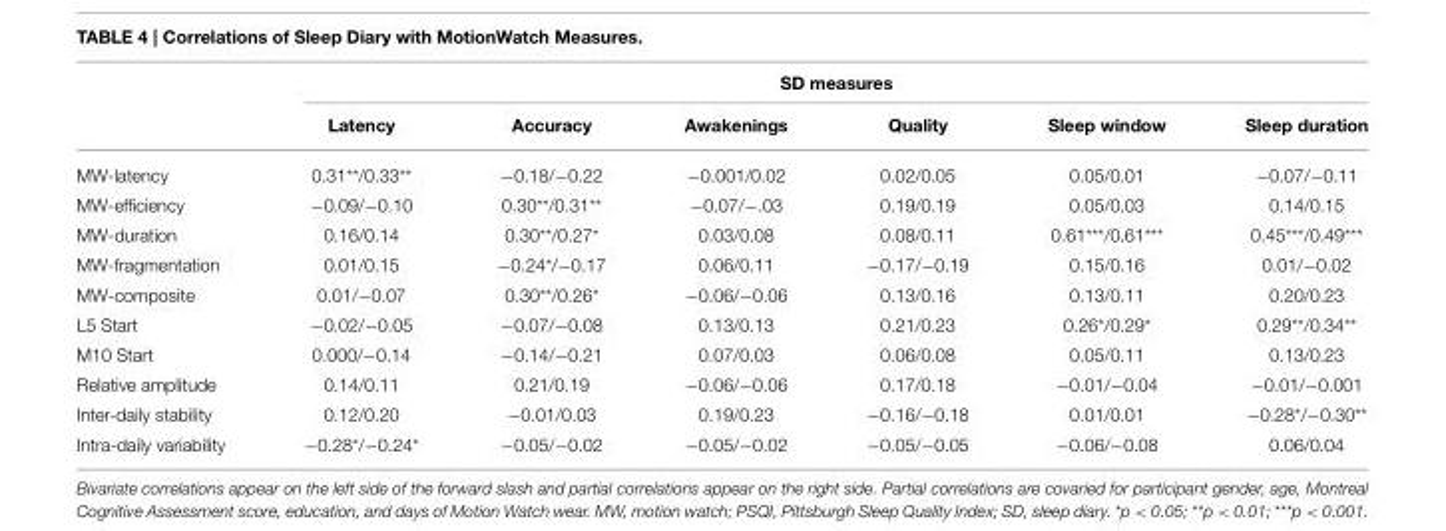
<table><thead><tr><td rowspan="2"></td><td colspan="6">SD measures</td></tr><tr><td>Latency</td><td>Accuracy</td><td>Awakenings</td><td>Quality</td><td>Sleep window</td><td>Sleep duration</td></tr></thead><tbody><tr><td>MW-latency</td><td>0.31**/0.33**</td><td>−0.18/−0.22</td><td>−0.001/0.02</td><td>0.02/0.05</td><td>0.05/0.01</td><td>−0.07/−0.11</td></tr><tr><td>MW-efficiency</td><td>−0.09/−0.10</td><td>0.30**/0.31**</td><td>−0.07/−.03</td><td>0.19/0.19</td><td>0.05/0.03</td><td>0.14/0.15</td></tr><tr><td>MW-duration</td><td>0.16/0.14</td><td>0.30**/0.27*</td><td>0.03/0.08</td><td>0.08/0.11</td><td>0.61***/0.61***</td><td>0.45***/0.49***</td></tr><tr><td>MW-fragmentation</td><td>0.01/0.15</td><td>−0.24*/−0.17</td><td>0.06/0.11</td><td>−0.17/−0.19</td><td>0.15/0.16</td><td>0.01/−0.02</td></tr><tr><td>MW-composite</td><td>0.01/−0.07</td><td>0.30**/0.26*</td><td>−0.06/−0.06</td><td>0.13/0.16</td><td>0.13/0.11</td><td>0.20/0.23</td></tr><tr><td>L5 Start</td><td>−0.02/−0.05</td><td>−0.07/−0.08</td><td>0.13/0.13</td><td>0.21/0.23</td><td>0.26*/0.29*</td><td>0.29**/0.34**</td></tr><tr><td>M10 Start</td><td>0.000/−0.14</td><td>−0.14/−0.21</td><td>0.07/0.03</td><td>0.06/0.08</td><td>0.05/0.11</td><td>0.13/0.23</td></tr><tr><td>Relative amplitude</td><td>0.14/0.11</td><td>0.21/0.19</td><td>−0.06/−0.06</td><td>0.17/0.18</td><td>−0.01/−0.04</td><td>−0.01/−0.001</td></tr><tr><td>Inter-daily stability</td><td>0.12/0.20</td><td>−0.01/0.03</td><td>0.19/0.23</td><td>−0.16/−0.18</td><td>0.01/0.01</td><td>−0.28*/−0.30**</td></tr><tr><td>Intra-daily variability</td><td>−0.28*/−0.24*</td><td>−0.05/−0.02</td><td>−0.05/−0.02</td><td>−0.05/−0.05</td><td>−0.06/−0.08</td><td>0.06/0.04</td></tr></tbody></table>